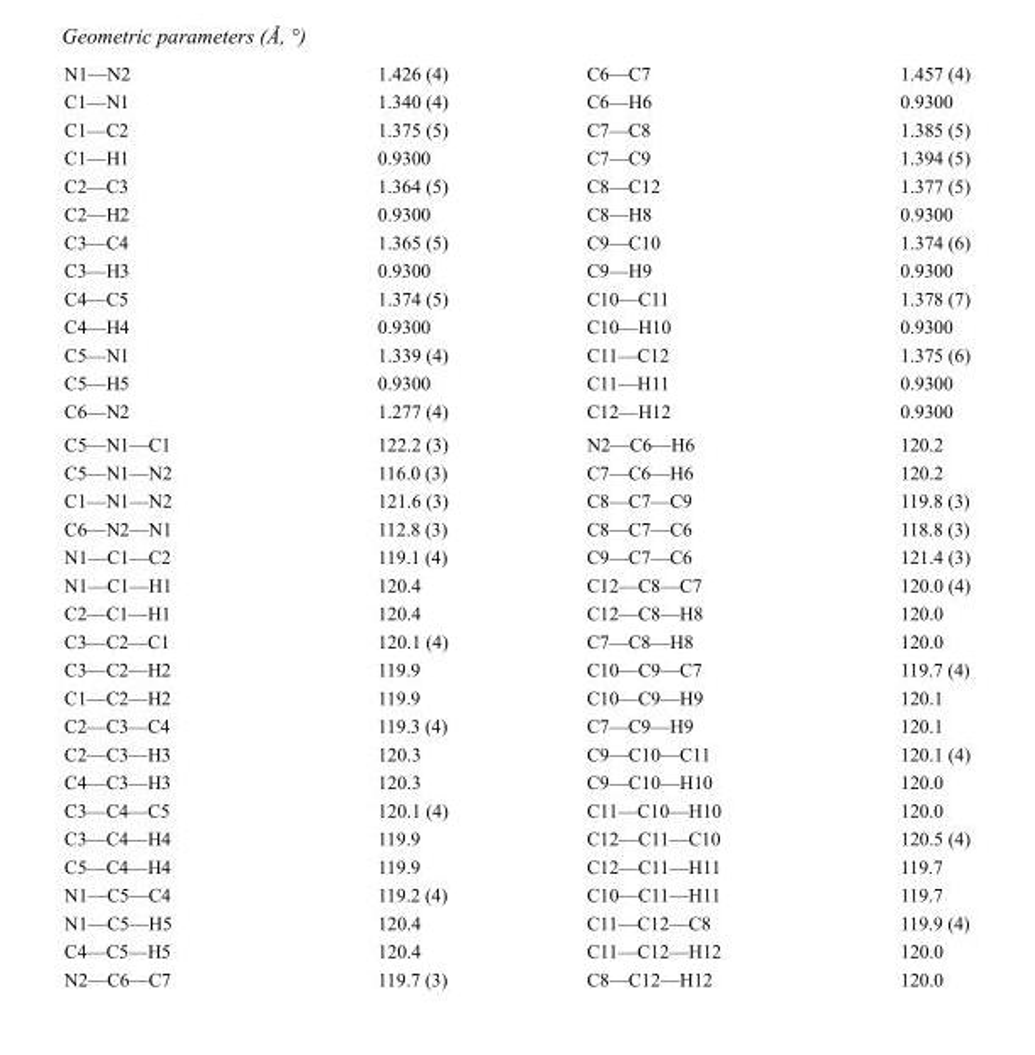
<table><tbody><tr><td>N1—N2</td><td>1.426 (4)</td><td>C6—C7</td><td>1.457 (4)</td></tr><tr><td>C1—N1</td><td>1.340 (4)</td><td>C6—H6</td><td>0.9300</td></tr><tr><td>C1—C2</td><td>1.375 (5)</td><td>C7—C8</td><td>1.385 (5)</td></tr><tr><td>C1—H1</td><td>0.9300</td><td>C7—C9</td><td>1.394 (5)</td></tr><tr><td>C2—C3</td><td>1.364 (5)</td><td>C8—C12</td><td>1.377 (5)</td></tr><tr><td>C2—H2</td><td>0.9300</td><td>C8—H8</td><td>0.9300</td></tr><tr><td>C3—C4</td><td>1.365 (5)</td><td>C9—C10</td><td>1.374 (6)</td></tr><tr><td>C3—H3</td><td>0.9300</td><td>C9—H9</td><td>0.9300</td></tr><tr><td>C4—C5</td><td>1.374 (5)</td><td>C10—C11</td><td>1.378 (7)</td></tr><tr><td>C4—H4</td><td>0.9300</td><td>C10—H10</td><td>0.9300</td></tr><tr><td>C5—N1</td><td>1.339 (4)</td><td>C11—C12</td><td>1.375 (6)</td></tr><tr><td>C5—H5</td><td>0.9300</td><td>C11—H11</td><td>0.9300</td></tr><tr><td>C6—N2</td><td>1.277 (4)</td><td>C12—H12</td><td>0.9300</td></tr><tr><td>C5—N1—C1</td><td>122.2 (3)</td><td>N2—C6—H6</td><td>120.2</td></tr><tr><td>C5—N1—N2</td><td>116.0 (3)</td><td>C7—C6—H6</td><td>120.2</td></tr><tr><td>C1—N1—N2</td><td>121.6 (3)</td><td>C8—C7—C9</td><td>119.8 (3)</td></tr><tr><td>C6—N2—N1</td><td>112.8 (3)</td><td>C8—C7—C6</td><td>118.8 (3)</td></tr><tr><td>N1—C1—C2</td><td>119.1 (4)</td><td>C9—C7—C6</td><td>121.4 (3)</td></tr><tr><td>N1—C1—H1</td><td>120.4</td><td>C12—C8—C7</td><td>120.0 (4)</td></tr><tr><td>C2—C1—H1</td><td>120.4</td><td>C12—C8—H8</td><td>120.0</td></tr><tr><td>C3—C2—C1</td><td>120.1 (4)</td><td>C7—C8—H8</td><td>120.0</td></tr><tr><td>C3—C2—H2</td><td>119.9</td><td>C10—C9—C7</td><td>119.7 (4)</td></tr><tr><td>C1—C2—H2</td><td>119.9</td><td>C10—C9—H9</td><td>120.1</td></tr><tr><td>C2—C3—C4</td><td>119.3 (4)</td><td>C7—C9—H9</td><td>120.1</td></tr><tr><td>C2—C3—H3</td><td>120.3</td><td>C9—C10—C11</td><td>120.1 (4)</td></tr><tr><td>C4—C3—H3</td><td>120.3</td><td>C9—C10—H10</td><td>120.0</td></tr><tr><td>C3—C4—C5</td><td>120.1 (4)</td><td>C11—C10—H10</td><td>120.0</td></tr><tr><td>C3—C4—H4</td><td>119.9</td><td>C12—C11—C10</td><td>120.5 (4)</td></tr><tr><td>C5—C4—H4</td><td>119.9</td><td>C12—C11—H11</td><td>119.7</td></tr><tr><td>N1—C5—C4</td><td>119.2 (4)</td><td>C10—C11—H11</td><td>119.7</td></tr><tr><td>N1—C5—H5</td><td>120.4</td><td>C11—C12—C8</td><td>119.9 (4)</td></tr><tr><td>C4—C5—H5</td><td>120.4</td><td>C11—C12—H12</td><td>120.0</td></tr><tr><td>N2—C6—C7</td><td>119.7 (3)</td><td>C8—C12—H12</td><td>120.0</td></tr></tbody></table>